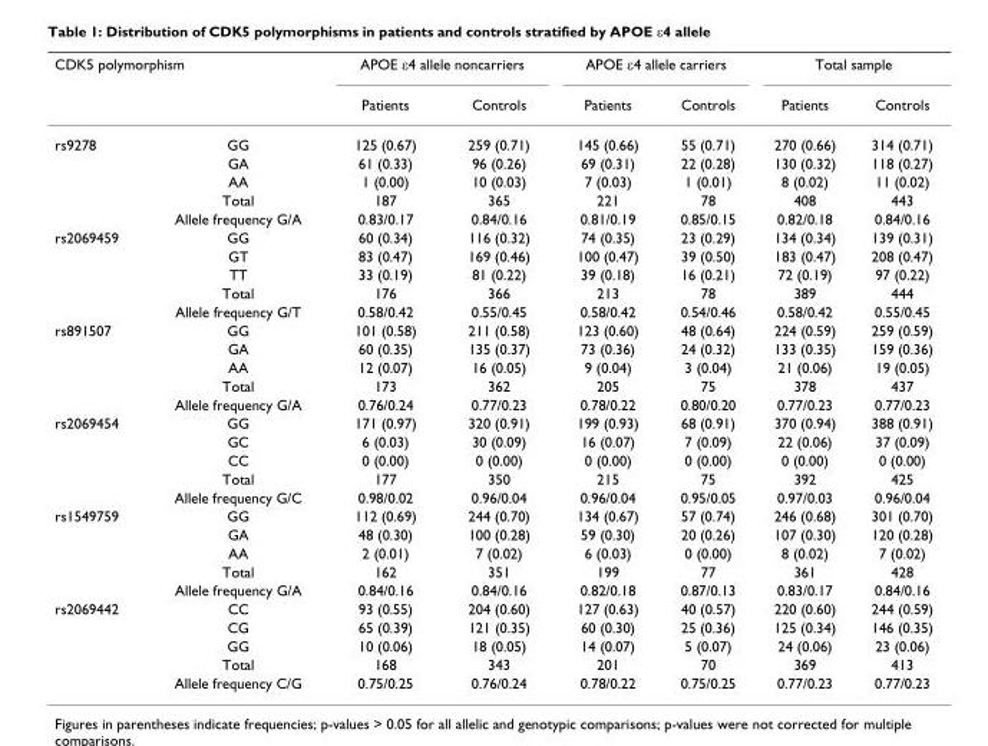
<table><thead><tr><td colspan="2">CDK5 polymorphism</td><td colspan="2">APOE ε4 allele noncarriers</td><td colspan="2">APOE ε4 allele carriers</td><td colspan="2">Total sample</td></tr><tr><td></td><td></td><td>Patients</td><td>Controls</td><td>Patients</td><td>Controls</td><td>Patients</td><td>Controls</td></tr></thead><tbody><tr><td rowspan="5">rs9278</td><td>GG</td><td>125 (0.67)</td><td>259 (0.71)</td><td>145 (0.66)</td><td>55 (0.71)</td><td>270 (0.66)</td><td>314 (0.71)</td></tr><tr><td>GA</td><td>61 (0.33)</td><td>96 (0.26)</td><td>69 (0.31)</td><td>22 (0.28)</td><td>130 (0.32)</td><td>118 (0.27)</td></tr><tr><td>AA</td><td>1 (0.00)</td><td>10 (0.03)</td><td>7 (0.03)</td><td>1 (0.01)</td><td>8 (0.02)</td><td>11 (0.02)</td></tr><tr><td>Total</td><td>187</td><td>365</td><td>221</td><td>78</td><td>408</td><td>443</td></tr><tr><td>Allele frequency G/A</td><td>0.83/0.17</td><td>0.84/0.16</td><td>0.81/0.19</td><td>0.85/0.15</td><td>0.82/0.18</td><td>0.84/0.16</td></tr><tr><td rowspan="5">rs2069459</td><td>GG</td><td>60 (0.34)</td><td>116 (0.32)</td><td>74 (0.35)</td><td>23 (0.29)</td><td>134 (0.34)</td><td>139 (0.31)</td></tr><tr><td>GT</td><td>83 (0.47)</td><td>169 (0.46)</td><td>100 (0.47)</td><td>39 (0.50)</td><td>183 (0.47)</td><td>208 (0.47)</td></tr><tr><td>TT</td><td>33 (0.19)</td><td>81 (0.22)</td><td>39 (0.18)</td><td>16 (0.21)</td><td>72 (0.19)</td><td>97 (0.22)</td></tr><tr><td>Total</td><td>176</td><td>366</td><td>213</td><td>78</td><td>389</td><td>444</td></tr><tr><td>Allele frequency G/T</td><td>0.58/0.42</td><td>0.55/0.45</td><td>0.58/0.42</td><td>0.54/0.46</td><td>0.58/0.42</td><td>0.55/0.45</td></tr><tr><td rowspan="5">rs891507</td><td>GG</td><td>101 (0.58)</td><td>211 (0.58)</td><td>123 (0.60)</td><td>48 (0.64)</td><td>224 (0.59)</td><td>259 (0.59)</td></tr><tr><td>GA</td><td>60 (0.35)</td><td>135 (0.37)</td><td>73 (0.36)</td><td>24 (0.32)</td><td>133 (0.35)</td><td>159 (0.36)</td></tr><tr><td>AA</td><td>12 (0.07)</td><td>16 (0.05)</td><td>9 (0.04)</td><td>3 (0.04)</td><td>21 (0.06)</td><td>19 (0.05)</td></tr><tr><td>Total</td><td>173</td><td>362</td><td>205</td><td>75</td><td>378</td><td>437</td></tr><tr><td>Allele frequency G/A</td><td>0.76/0.24</td><td>0.77/0.23</td><td>0.78/0.22</td><td>0.80/0.20</td><td>0.77/0.23</td><td>0.77/0.23</td></tr><tr><td rowspan="5">rs2069454</td><td>GG</td><td>171 (0.97)</td><td>320 (0.91)</td><td>199 (0.93)</td><td>68 (0.91)</td><td>370 (0.94)</td><td>388 (0.91)</td></tr><tr><td>GC</td><td>6 (0.03)</td><td>30 (0.09)</td><td>16 (0.07)</td><td>7 (0.09)</td><td>22 (0.06)</td><td>37 (0.09)</td></tr><tr><td>CC</td><td>0 (0.00)</td><td>0 (0.00)</td><td>0 (0.00)</td><td>0 (0.00)</td><td>0 (0.00)</td><td>0 (0.00)</td></tr><tr><td>Total</td><td>177</td><td>350</td><td>215</td><td>75</td><td>392</td><td>425</td></tr><tr><td>Allele frequency G/C</td><td>0.98/0.02</td><td>0.96/0.04</td><td>0.96/0.04</td><td>0.95/0.05</td><td>0.97/0.03</td><td>0.96/0.04</td></tr><tr><td rowspan="5">rs1549759</td><td>GG</td><td>112 (0.69)</td><td>244 (0.70)</td><td>134 (0.67)</td><td>57 (0.74)</td><td>246 (0.68)</td><td>301 (0.70)</td></tr><tr><td>GA</td><td>48 (0.30)</td><td>100 (0.28)</td><td>59 (0.30)</td><td>20 (0.26)</td><td>107 (0.30)</td><td>120 (0.28)</td></tr><tr><td>AA</td><td>2 (0.01)</td><td>7 (0.02)</td><td>6 (0.03)</td><td>0 (0.00)</td><td>8 (0.02)</td><td>7 (0.02)</td></tr><tr><td>Total</td><td>162</td><td>351</td><td>199</td><td>77</td><td>361</td><td>428</td></tr><tr><td>Allele frequency G/A</td><td>0.84/0.16</td><td>0.84/0.16</td><td>0.82/0.18</td><td>0.87/0.13</td><td>0.83/0.17</td><td>0.84/0.16</td></tr><tr><td rowspan="5">rs2069442</td><td>CC</td><td>93 (0.55)</td><td>204 (0.60)</td><td>127 (0.63)</td><td>40 (0.57)</td><td>220 (0.60)</td><td>244 (0.59)</td></tr><tr><td>CG</td><td>65 (0.39)</td><td>121 (0.35)</td><td>60 (0.30)</td><td>25 (0.36)</td><td>125 (0.34)</td><td>146 (0.35)</td></tr><tr><td>GG</td><td>10 (0.06)</td><td>18 (0.05)</td><td>14 (0.07)</td><td>5 (0.07)</td><td>24 (0.06)</td><td>23 (0.06)</td></tr><tr><td>Total</td><td>168</td><td>343</td><td>201</td><td>70</td><td>369</td><td>413</td></tr><tr><td>Allele frequency C/G</td><td>0.75/0.25</td><td>0.76/0.24</td><td>0.78/0.22</td><td>0.75/0.25</td><td>0.77/0.23</td><td>0.77/0.23</td></tr></tbody></table>